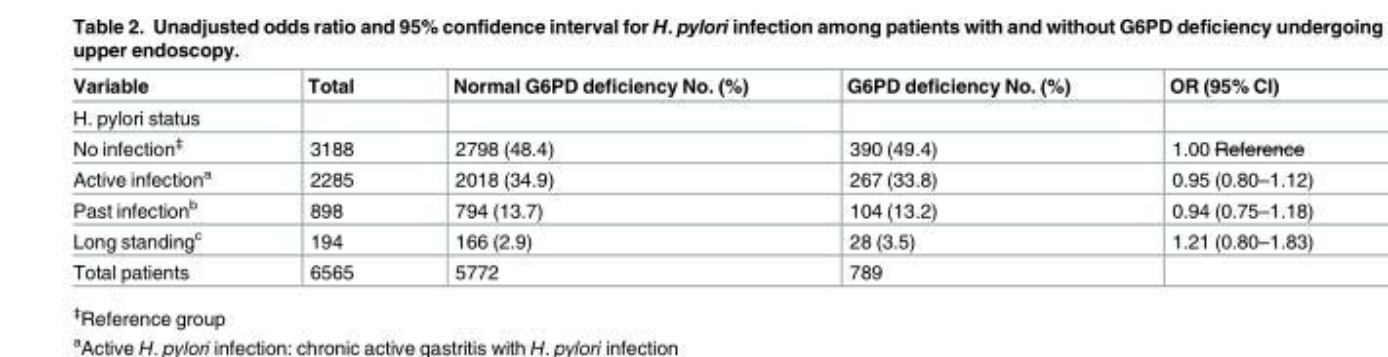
<table><thead><tr><td>Variable</td><td>Total</td><td>Normal G6PD deficiency No. (%)</td><td>G6PD deficiency No. (%)</td><td>OR (95% CI)</td></tr></thead><tbody><tr><td colspan="5">H. pylori status</td></tr><tr><td>No infection<sup>‡</sup></td><td>3188</td><td>2798 (48.4)</td><td>390 (49.4)</td><td>1.00 Reference</td></tr><tr><td>Active infection<sup>a</sup></td><td>2285</td><td>2018 (34.9)</td><td>267 (33.8)</td><td>0.95 (0.80–1.12)</td></tr><tr><td>Past infection<sup>b</sup></td><td>898</td><td>794 (13.7)</td><td>104 (13.2)</td><td>0.94 (0.75–1.18)</td></tr><tr><td>Long standing<sup>c</sup></td><td>194</td><td>166 (2.9)</td><td>28 (3.5)</td><td>1.21 (0.80–1.83)</td></tr><tr><td>Total patients</td><td>6565</td><td>5772</td><td>789</td><td></td></tr></tbody></table>